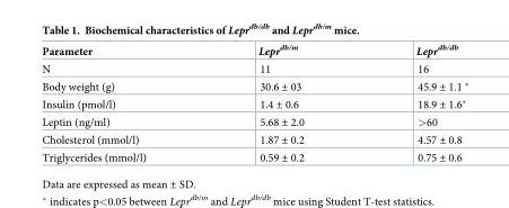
<table><thead><tr><td>Parameter</td><td>Lepr<sup>db/m</sup></td><td>Lepr<sup>db/db</sup></td></tr></thead><tbody><tr><td>N</td><td>11</td><td>16</td></tr><tr><td>Body weight (g)</td><td>30.6 ± 03</td><td>45.9 ± 1.1</td></tr><tr><td>Insulin (pmol/l)</td><td>1.4 ± 0.6</td><td>18.9 ± 1.6*</td></tr><tr><td>Leptin (ng/ml)</td><td>5.68 ± 2.0</td><td>&gt;60</td></tr><tr><td>Cholesterol (mmol/l)</td><td>1.87 ± 0.2</td><td>4.57 ± 0.8</td></tr><tr><td>Triglycerides (mmol/l)</td><td>0.59 ± 0.2</td><td>0.75 ± 0.6</td></tr></tbody></table>